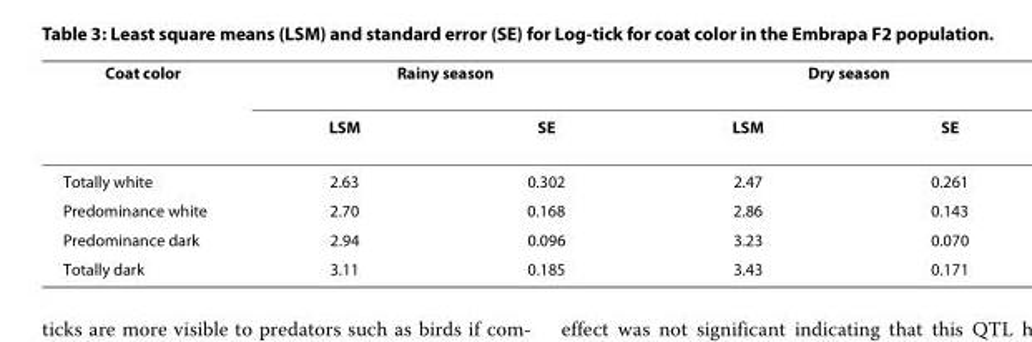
<table><thead><tr><td rowspan="2">Coat color</td><td colspan="2">Rainy season</td><td colspan="2">Dry season</td></tr><tr><td>LSM</td><td>SE</td><td>LSM</td><td>SE</td></tr></thead><tbody><tr><td>Totally white</td><td>2.63</td><td>0.302</td><td>2.47</td><td>0.261</td></tr><tr><td>Predominance white</td><td>2.70</td><td>0.168</td><td>2.86</td><td>0.143</td></tr><tr><td>Predominance dark</td><td>2.94</td><td>0.096</td><td>3.23</td><td>0.070</td></tr><tr><td>Totally dark</td><td>3.11</td><td>0.185</td><td>3.43</td><td>0.171</td></tr></tbody></table>